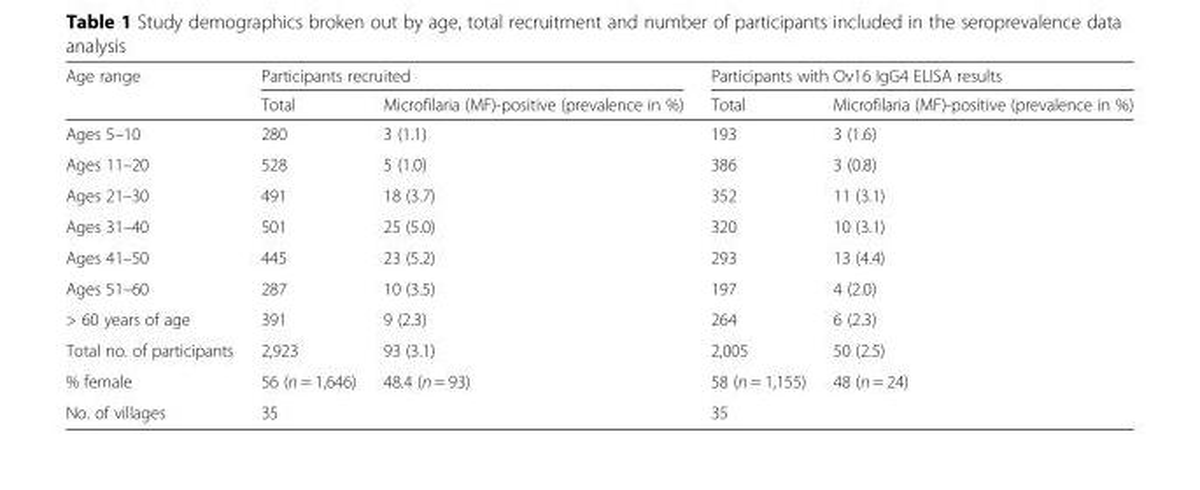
<table><thead><tr><td rowspan="2">Age range</td><td colspan="2">Participants recruited</td><td colspan="2">Participants with Ov16 IgG4 ELISA results</td></tr><tr><td>Total</td><td>Microfilaria (MF)-positive (prevalence in %)</td><td>Total</td><td>Microfilaria (MF)-positive (prevalence in %)</td></tr></thead><tbody><tr><td>Ages 5–10</td><td>280</td><td>3 (1.1)</td><td>193</td><td>3 (1.6)</td></tr><tr><td>Ages 11–20</td><td>528</td><td>5 (1.0)</td><td>386</td><td>3 (0.8)</td></tr><tr><td>Ages 21–30</td><td>491</td><td>18 (3.7)</td><td>352</td><td>11 (3.1)</td></tr><tr><td>Ages 31–40</td><td>501</td><td>25 (5.0)</td><td>320</td><td>10 (3.1)</td></tr><tr><td>Ages 41–50</td><td>445</td><td>23 (5.2)</td><td>293</td><td>13 (4.4)</td></tr><tr><td>Ages 51–60</td><td>287</td><td>10 (3.5)</td><td>197</td><td>4 (2.0)</td></tr><tr><td>&gt; 60 years of age</td><td>391</td><td>9 (2.3)</td><td>264</td><td>6 (2.3)</td></tr><tr><td>Total no. of participants</td><td>2,923</td><td>93 (3.1)</td><td>2,005</td><td>50 (2.5)</td></tr><tr><td>% female</td><td>56 (n = 1,646)</td><td>48.4 (n = 93)</td><td>58 (n = 1,155)</td><td>48 (n = 24)</td></tr><tr><td>No. of villages</td><td colspan="2">35</td><td colspan="2">35</td></tr></tbody></table>